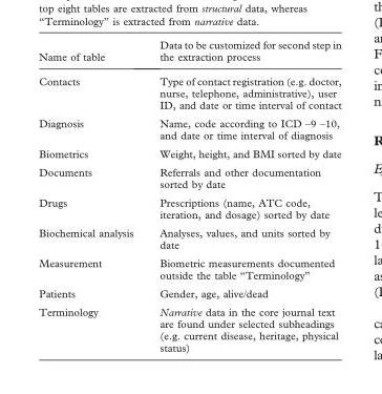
<table><thead><tr><td>Name of table</td><td>Data to be customized for second step in the extraction process</td></tr></thead><tbody><tr><td>Contacts</td><td>Type of contact registration (e.g. doctor, nurse, telephone, administrative), user ID, and date or time interval of contact</td></tr><tr><td>Diagnosis</td><td>Name, code according to ICD –9 –10, and date or time interval of diagnosis</td></tr><tr><td>Biometrics</td><td>Weight, height, and BMI sorted by date</td></tr><tr><td>Documents</td><td>Referrals and other documentation sorted by date</td></tr><tr><td>Drugs</td><td>Prescriptions (name, ATC code, iteration, and dosage) sorted by date</td></tr><tr><td>Biochemical analysis</td><td>Analyses, values, and units sorted by date</td></tr><tr><td>Measurement</td><td>Biometric measurements documented outside the table “Terminology”</td></tr><tr><td>Patients</td><td>Gender, age, alive/dead</td></tr><tr><td>Terminology</td><td>Narrative data in the core journal text are found under selected subheadings (e.g. current disease, heritage, physical status)</td></tr></tbody></table>